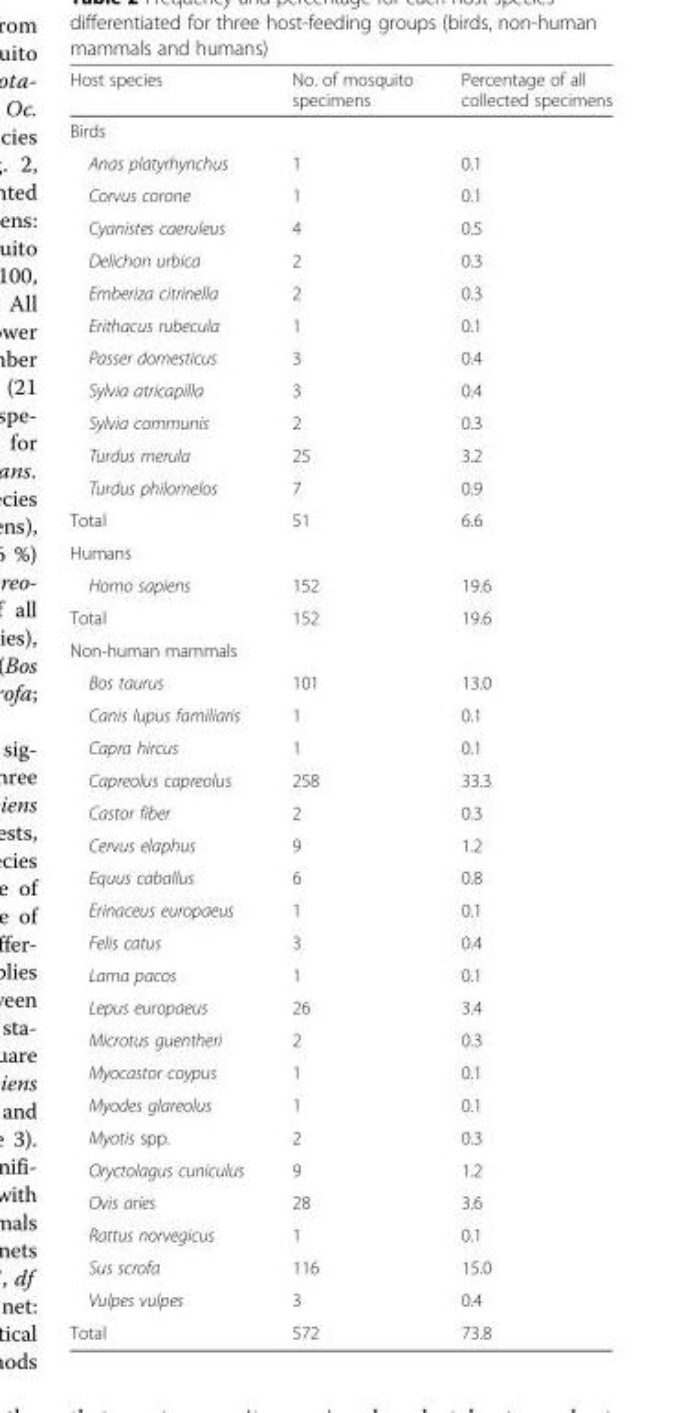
<table><thead><tr><td>Host species</td><td>No. of mosquito specimens</td><td>Percentage of all collected specimens</td></tr></thead><tbody><tr><td colspan="3">Birds</td></tr><tr><td>Anas platyrhynchus</td><td>1</td><td>0.1</td></tr><tr><td>Corvus corone</td><td>1</td><td>0.1</td></tr><tr><td>Cyanistes caeruleus</td><td>4</td><td>0.5</td></tr><tr><td>Delichon urbica</td><td>2</td><td>0.3</td></tr><tr><td>Emberiza citrinella</td><td>2</td><td>0.3</td></tr><tr><td>Erithacus rubecula</td><td>1</td><td>0.1</td></tr><tr><td>Passer domesticus</td><td>3</td><td>0.4</td></tr><tr><td>Sylvia atricapilla</td><td>3</td><td>0.4</td></tr><tr><td>Sylvia communis</td><td>2</td><td>0.3</td></tr><tr><td>Turdus merula</td><td>25</td><td>3.2</td></tr><tr><td>Turdus philomelos</td><td>7</td><td>0.9</td></tr><tr><td>Total</td><td>51</td><td>6.6</td></tr><tr><td colspan="3">Humans</td></tr><tr><td>Homo sapiens</td><td>152</td><td>19.6</td></tr><tr><td>Total</td><td>152</td><td>19.6</td></tr><tr><td colspan="3">Non-human mammals</td></tr><tr><td>Bos taurus</td><td>101</td><td>13.0</td></tr><tr><td>Canis lupus familiaris</td><td>1</td><td>0.1</td></tr><tr><td>Capra hircus</td><td>1</td><td>0.1</td></tr><tr><td>Capreolus capreolus</td><td>258</td><td>33.3</td></tr><tr><td>Castor fiber</td><td>2</td><td>0.3</td></tr><tr><td>Cervus elaphus</td><td>9</td><td>1.2</td></tr><tr><td>Equus caballus</td><td>6</td><td>0.8</td></tr><tr><td>Erinaceus europaeus</td><td>1</td><td>0.1</td></tr><tr><td>Felis catus</td><td>3</td><td>0.4</td></tr><tr><td>Lama pacos</td><td>1</td><td>0.1</td></tr><tr><td>Lepus europaeus</td><td>26</td><td>3.4</td></tr><tr><td>Microtus guentheri</td><td>2</td><td>0.3</td></tr><tr><td>Myocastor coypus</td><td>1</td><td>0.1</td></tr><tr><td>Myodes glareolus</td><td>1</td><td>0.1</td></tr><tr><td>Myotis spp.</td><td>2</td><td>0.3</td></tr><tr><td>Oryctolagus cuniculus</td><td>9</td><td>1.2</td></tr><tr><td>Ovis aries</td><td>28</td><td>3.6</td></tr><tr><td>Rattus norvegicus</td><td>1</td><td>0.1</td></tr><tr><td>Sus scrofa</td><td>116</td><td>15.0</td></tr><tr><td>Vulpes vulpes</td><td>3</td><td>0.4</td></tr><tr><td>Total</td><td>572</td><td>73.8</td></tr></tbody></table>